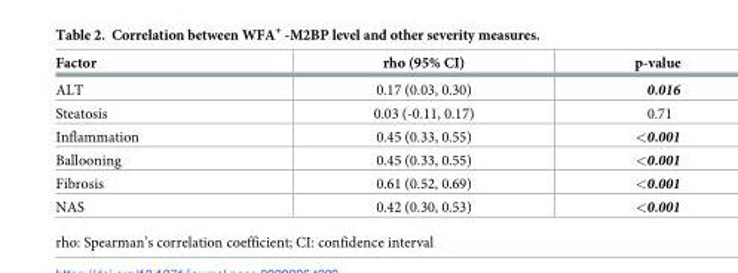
<table><thead><tr><td>Factor</td><td>rho (95% CI)</td><td>p-value</td></tr></thead><tbody><tr><td>ALT</td><td>0.17 (0.03, 0.30)</td><td>0.016</td></tr><tr><td>Steatosis</td><td>0.03 (-0.11, 0.17)</td><td>0.71</td></tr><tr><td>Inflammation</td><td>0.45 (0.33, 0.55)</td><td>&lt;0.001</td></tr><tr><td>Ballooning</td><td>0.45 (0.33, 0.55)</td><td>&lt;0.001</td></tr><tr><td>Fibrosis</td><td>0.61 (0.52, 0.69)</td><td>&lt;0.001</td></tr><tr><td>NAS</td><td>0.42 (0.30, 0.53)</td><td>&lt;0.001</td></tr></tbody></table>